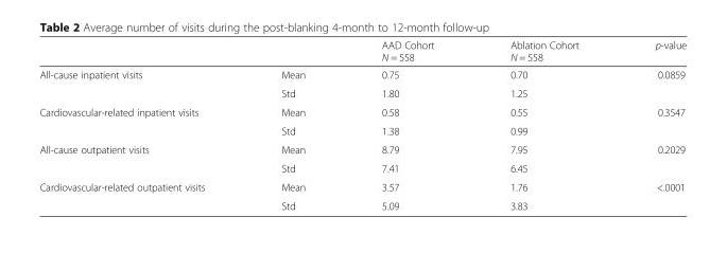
<table><thead><tr><td></td><td></td><td>AAD Cohort N = 558</td><td>Ablation Cohort N = 558</td><td>p-value</td></tr></thead><tbody><tr><td rowspan="2">All-cause inpatient visits</td><td>Mean</td><td>0.75</td><td>0.70</td><td rowspan="2">0.0859</td></tr><tr><td>Std</td><td>1.80</td><td>1.25</td></tr><tr><td rowspan="2">Cardiovascular-related inpatient visits</td><td>Mean</td><td>0.58</td><td>0.55</td><td rowspan="2">0.3547</td></tr><tr><td>Std</td><td>1.38</td><td>0.99</td></tr><tr><td rowspan="2">All-cause outpatient visits</td><td>Mean</td><td>8.79</td><td>7.95</td><td rowspan="2">0.2029</td></tr><tr><td>Std</td><td>7.41</td><td>6.45</td></tr><tr><td rowspan="2">Cardiovascular-related outpatient visits</td><td>Mean</td><td>3.57</td><td>1.76</td><td rowspan="2">&lt;.0001</td></tr><tr><td>Std</td><td>5.09</td><td>3.83</td></tr></tbody></table>